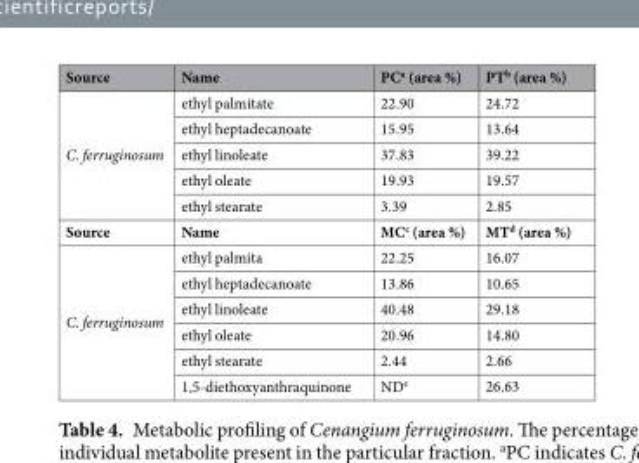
<table><thead><tr><td>Source</td><td>Name</td><td>PC<sup>a</sup> (area %)</td><td>PT<sup>b</sup> (area %)</td></tr></thead><tbody><tr><td rowspan="5">C. ferruginosum</td><td>ethyl palmitate</td><td>22.90</td><td>24.72</td></tr><tr><td>ethyl heptadecanoate</td><td>15.95</td><td>13.64</td></tr><tr><td>ethyl linoleate</td><td>37.83</td><td>39.22</td></tr><tr><td>ethyl oleate</td><td>19.93</td><td>19.57</td></tr><tr><td>ethyl stearate</td><td>3.39</td><td>2.85</td></tr><tr><td>Source</td><td>Name</td><td>MC<sup>c</sup> (area %)</td><td>MT<sup>d</sup> (area %)</td></tr><tr><td rowspan="6">C. ferruginosum</td><td>ethyl palmita</td><td>22.25</td><td>16.07</td></tr><tr><td>ethyl heptadecanoate</td><td>13.86</td><td>10.65</td></tr><tr><td>ethyl linoleate</td><td>40.48</td><td>29.18</td></tr><tr><td>ethyl oleate</td><td>20.96</td><td>14.80</td></tr><tr><td>ethyl stearate</td><td>2.44</td><td>2.66</td></tr><tr><td>1,5-diethoxyanthraquinone</td><td>ND<sup>e</sup></td><td>26.63</td></tr></tbody></table>